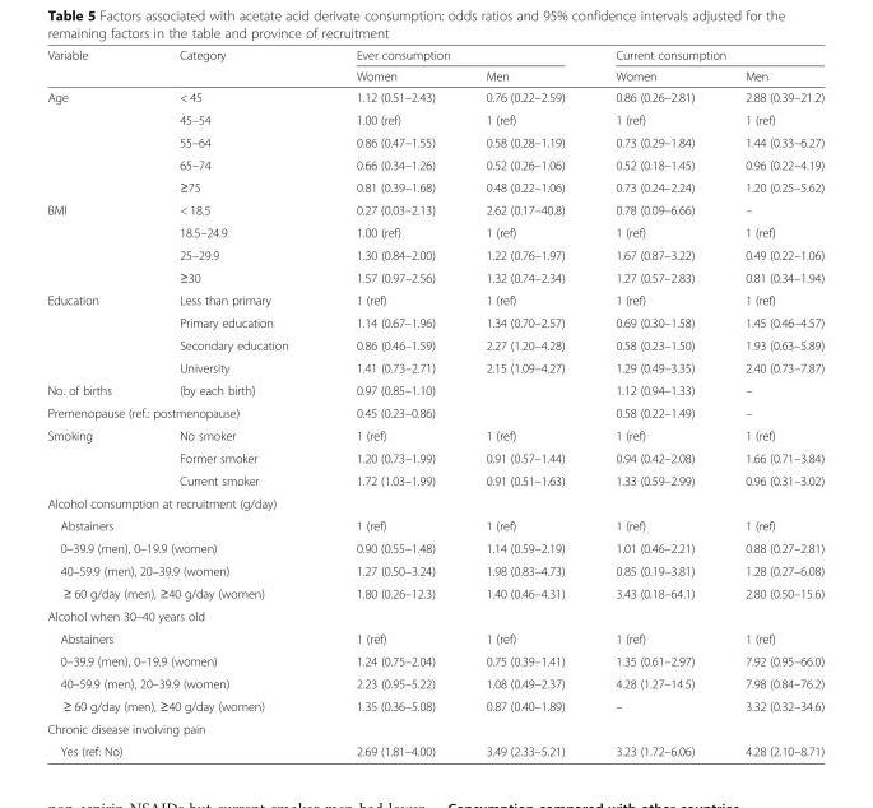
<table><thead><tr><td rowspan="2">Variable</td><td rowspan="2">Category</td><td colspan="2">Ever consumption</td><td colspan="2">Current consumption</td></tr><tr><td>Women</td><td>Men</td><td>Women</td><td>Men</td></tr></thead><tbody><tr><td rowspan="5">Age</td><td>&lt; 45</td><td>1.12 (0.51–2.43)</td><td>0.76 (0.22–2.59)</td><td>0.86 (0.26–2.81)</td><td>2.88 (0.39–21.2)</td></tr><tr><td>45–54</td><td>1.00 (ref)</td><td>1 (ref)</td><td>1 (ref)</td><td>1 (ref)</td></tr><tr><td>55–64</td><td>0.86 (0.47–1.55)</td><td>0.58 (0.28–1.19)</td><td>0.73 (0.29–1.84)</td><td>1.44 (0.33–6.27)</td></tr><tr><td>65–74</td><td>0.66 (0.34–1.26)</td><td>0.52 (0.26–1.06)</td><td>0.52 (0.18–1.45)</td><td>0.96 (0.22–4.19)</td></tr><tr><td>≥75</td><td>0.81 (0.39–1.68)</td><td>0.48 (0.22–1.06)</td><td>0.73 (0.24–2.24)</td><td>1.20 (0.25–5.62)</td></tr><tr><td rowspan="4">BMI</td><td>&lt; 18.5</td><td>0.27 (0.03–2.13)</td><td>2.62 (0.17–40.8)</td><td>0.78 (0.09–6.66)</td><td>–</td></tr><tr><td>18.5–24.9</td><td>1.00 (ref)</td><td>1 (ref)</td><td>1 (ref)</td><td>1 (ref)</td></tr><tr><td>25–29.9</td><td>1.30 (0.84–2.00)</td><td>1.22 (0.76–1.97)</td><td>1.67 (0.87–3.22)</td><td>0.49 (0.22–1.06)</td></tr><tr><td>≥30</td><td>1.57 (0.97–2.56)</td><td>1.32 (0.74–2.34)</td><td>1.27 (0.57–2.83)</td><td>0.81 (0.34–1.94)</td></tr><tr><td rowspan="4">Education</td><td>Less than primary</td><td>1 (ref)</td><td>1 (ref)</td><td>1 (ref)</td><td>1 (ref)</td></tr><tr><td>Primary education</td><td>1.14 (0.67–1.96)</td><td>1.34 (0.70–2.57)</td><td>0.69 (0.30–1.58)</td><td>1.45 (0.46–4.57)</td></tr><tr><td>Secondary education</td><td>0.86 (0.46–1.59)</td><td>2.27 (1.20–4.28)</td><td>0.58 (0.23–1.50)</td><td>1.93 (0.63–5.89)</td></tr><tr><td>University</td><td>1.41 (0.73–2.71)</td><td>2.15 (1.09–4.27)</td><td>1.29 (0.49–3.35)</td><td>2.40 (0.73–7.87)</td></tr><tr><td>No. of births</td><td>(by each birth)</td><td>0.97 (0.85–1.10)</td><td></td><td>1.12 (0.94–1.33)</td><td>–</td></tr><tr><td colspan="2">Premenopause (ref.: postmenopause)</td><td>0.45 (0.23–0.86)</td><td></td><td>0.58 (0.22–1.49)</td><td>–</td></tr><tr><td rowspan="3">Smoking</td><td>No smoker</td><td>1 (ref)</td><td>1 (ref)</td><td>1 (ref)</td><td>1 (ref)</td></tr><tr><td>Former smoker</td><td>1.20 (0.73–1.99)</td><td>0.91 (0.57–1.44)</td><td>0.94 (0.42–2.08)</td><td>1.66 (0.71–3.84)</td></tr><tr><td>Current smoker</td><td>1.72 (1.03–1.99)</td><td>0.91 (0.51–1.63)</td><td>1.33 (0.59–2.99)</td><td>0.96 (0.31–3.02)</td></tr><tr><td colspan="6">Alcohol consumption at recruitment (g/day)</td></tr><tr><td colspan="2">Abstainers</td><td>1 (ref)</td><td>1 (ref)</td><td>1 (ref)</td><td>1 (ref)</td></tr><tr><td colspan="2">0–39.9 (men), 0–19.9 (women)</td><td>0.90 (0.55–1.48)</td><td>1.14 (0.59–2.19)</td><td>1.01 (0.46–2.21)</td><td>0.88 (0.27–2.81)</td></tr><tr><td colspan="2">40–59.9 (men), 20–39.9 (women)</td><td>1.27 (0.50–3.24)</td><td>1.98 (0.83–4.73)</td><td>0.85 (0.19–3.81)</td><td>1.28 (0.27–6.08)</td></tr><tr><td colspan="2">≥ 60 g/day (men), ≥40 g/day (women)</td><td>1.80 (0.26–12.3)</td><td>1.40 (0.46–4.31)</td><td>3.43 (0.18–64.1)</td><td>2.80 (0.50–15.6)</td></tr><tr><td colspan="6">Alcohol when 30–40 years old</td></tr><tr><td colspan="2">Abstainers</td><td>1 (ref)</td><td>1 (ref)</td><td>1 (ref)</td><td>1 (ref)</td></tr><tr><td colspan="2">0–39.9 (men), 0–19.9 (women)</td><td>1.24 (0.75–2.04)</td><td>0.75 (0.39–1.41)</td><td>1.35 (0.61–2.97)</td><td>7.92 (0.95–66.0)</td></tr><tr><td colspan="2">40–59.9 (men), 20–39.9 (women)</td><td>2.23 (0.95–5.22)</td><td>1.08 (0.49–2.37)</td><td>4.28 (1.27–14.5)</td><td>7.98 (0.84–76.2)</td></tr><tr><td colspan="2">≥ 60 g/day (men), ≥40 g/day (women)</td><td>1.35 (0.36–5.08)</td><td>0.87 (0.40–1.89)</td><td>–</td><td>3.32 (0.32–34.6)</td></tr><tr><td colspan="6">Chronic disease involving pain</td></tr><tr><td colspan="2">Yes (ref: No)</td><td>2.69 (1.81–4.00)</td><td>3.49 (2.33–5.21)</td><td>3.23 (1.72–6.06)</td><td>4.28 (2.10–8.71)</td></tr></tbody></table>